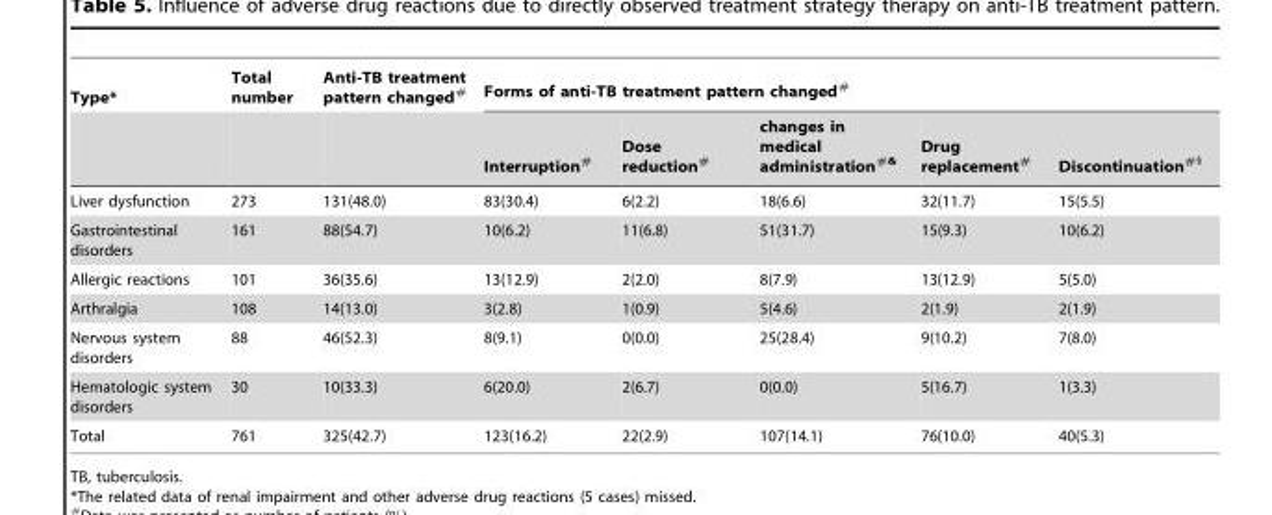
<table><thead><tr><td rowspan="2">Type*</td><td rowspan="2">Total number</td><td rowspan="2">Anti-TB treatment pattern changed#</td><td colspan="5">Forms of anti-TB treatment pattern changed#</td></tr><tr><td>Interruption#</td><td>Dose reduction#</td><td>changes in medical administration<sup>#&amp;</sup></td><td>Drug replacement#</td><td>Discontinuation<sup>#</sup>§</td></tr></thead><tbody><tr><td>Liver dysfunction</td><td>273</td><td>131(48.0)</td><td>83(30.4)</td><td>6(2.2)</td><td>18(6.6)</td><td>32(11.7)</td><td>15(5.5)</td></tr><tr><td>Gastrointestinal disorders</td><td>161</td><td>88(54.7)</td><td>10(6.2)</td><td>11(6.8)</td><td>51(31.7)</td><td>15(9.3)</td><td>10(6.2)</td></tr><tr><td>Allergic reactions</td><td>101</td><td>36(35.6)</td><td>13(12.9)</td><td>2(2.0)</td><td>8(7.9)</td><td>13(12.9)</td><td>5(5.0)</td></tr><tr><td>Arthralgia</td><td>108</td><td>14(13.0)</td><td>3(2.8)</td><td>1(0.9)</td><td>5(4.6)</td><td>2(1.9)</td><td>2(1.9)</td></tr><tr><td>Nervous system disorders</td><td>88</td><td>46(52.3)</td><td>8(9.1)</td><td>0(0.0)</td><td>25(28.4)</td><td>9(10.2)</td><td>7(8.0)</td></tr><tr><td>Hematologic system disorders</td><td>30</td><td>10(33.3)</td><td>6(20.0)</td><td>2(6.7)</td><td>0(0.0)</td><td>5(16.7)</td><td>1(3.3)</td></tr><tr><td>Total</td><td>761</td><td>325(42.7)</td><td>123(16.2)</td><td>22(2.9)</td><td>107(14.1)</td><td>76(10.0)</td><td>40(5.3)</td></tr></tbody></table>